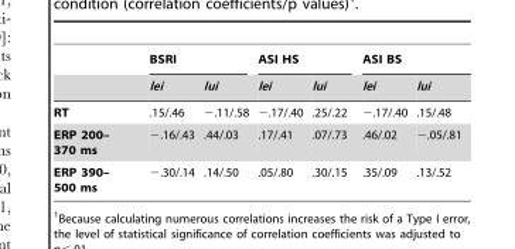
<table><thead><tr><td rowspan="2"></td><td colspan="2">BSRI</td><td colspan="2">ASI HS</td><td colspan="2">ASI BS</td></tr><tr><td>lei</td><td>lui</td><td>lei</td><td>lui</td><td>lei</td><td>lui</td></tr></thead><tbody><tr><td>RT</td><td>.15/.46</td><td>−.11/.58</td><td>−.17/.40</td><td>.25/.22</td><td>−.17/.40</td><td>.15/.48</td></tr><tr><td>ERP 200– 370 ms</td><td>−.16/.43</td><td>.44/.03</td><td>.17/.41</td><td>.07/.73</td><td>.46/.02</td><td>−.05/.81</td></tr><tr><td>ERP 390– 500 ms</td><td>−.30/.14</td><td>.14/.50</td><td>.05/.80</td><td>.30/.15</td><td>.35/.09</td><td>.13/.52</td></tr></tbody></table>